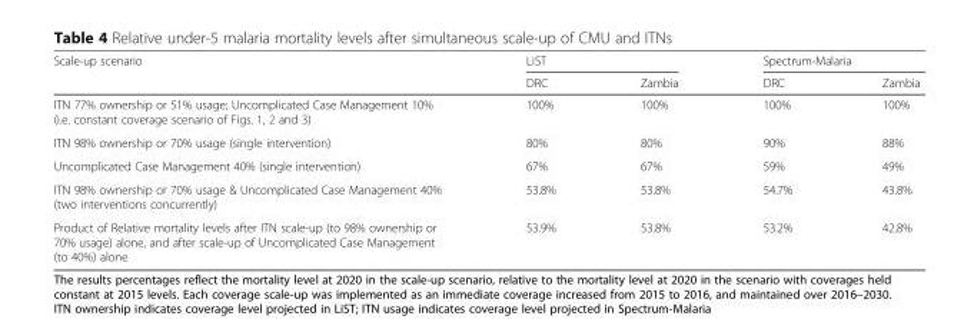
<table><thead><tr><td rowspan="2">Scale-up scenario</td><td colspan="2">LiST</td><td colspan="2">Spectrum-Malaria</td></tr><tr><td>DRC</td><td>Zambia</td><td>DRC</td><td>Zambia</td></tr></thead><tbody><tr><td>ITN 77% ownership or 51% usage; Uncomplicated Case Management 10% (i.e. constant coverage scenario of Figs. 1, 2 and 3)</td><td>100%</td><td>100%</td><td>100%</td><td>100%</td></tr><tr><td>ITN 98% ownership or 70% usage (single intervention)</td><td>80%</td><td>80%</td><td>90%</td><td>88%</td></tr><tr><td>Uncomplicated Case Management 40% (single intervention)</td><td>67%</td><td>67%</td><td>59%</td><td>49%</td></tr><tr><td>ITN 98% ownership or 70% usage &amp; Uncomplicated Case Management 40% (two interventions concurrently)</td><td>53.8%</td><td>53.8%</td><td>54.7%</td><td>43.8%</td></tr><tr><td>Product of Relative mortality levels after ITN scale-up (to 98% ownership or 70% usage) alone, and after scale-up of Uncomplicated Case Management (to 40%) alone</td><td>53.9%</td><td>53.8%</td><td>53.2%</td><td>42.8%</td></tr></tbody></table>